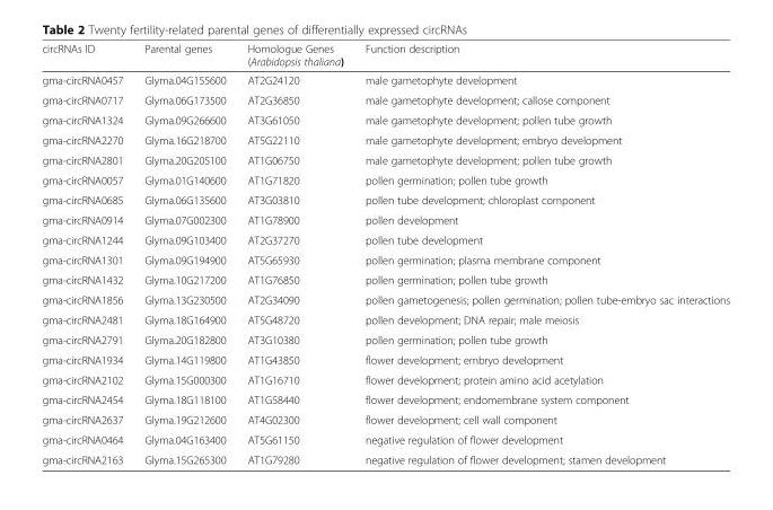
<table><thead><tr><td>circRNAs ID</td><td>Parental genes</td><td>Homologue Genes (Arabidopsis thaliana)</td><td>Function description</td></tr></thead><tbody><tr><td>gma-circRNA0457</td><td>Glyma.04G155600</td><td>AT2G24120</td><td>male gametophyte development</td></tr><tr><td>gma-circRNA0717</td><td>Glyma.06G173500</td><td>AT2G36850</td><td>male gametophyte development; callose component</td></tr><tr><td>gma-circRNA1324</td><td>Glyma.09G266600</td><td>AT3G61050</td><td>male gametophyte development; pollen tube growth</td></tr><tr><td>gma-circRNA2270</td><td>Glyma.16G218700</td><td>AT5G22110</td><td>male gametophyte development; embryo development</td></tr><tr><td>gma-circRNA2801</td><td>Glyma.20G205100</td><td>AT1G06750</td><td>male gametophyte development; pollen tube growth</td></tr><tr><td>gma-circRNA0057</td><td>Glyma.01G140600</td><td>AT1G71820</td><td>pollen germination; pollen tube growth</td></tr><tr><td>gma-circRNA0685</td><td>Glyma.06G135600</td><td>AT3G03810</td><td>pollen tube development; chloroplast component</td></tr><tr><td>gma-circRNA0914</td><td>Glyma.07G002300</td><td>AT1G78900</td><td>pollen development</td></tr><tr><td>gma-circRNA1244</td><td>Glyma.09G103400</td><td>AT2G37270</td><td>pollen tube development</td></tr><tr><td>gma-circRNA1301</td><td>Glyma.09G194900</td><td>AT5G65930</td><td>pollen germination; plasma membrane component</td></tr><tr><td>gma-circRNA1432</td><td>Glyma.10G217200</td><td>AT1G76850</td><td>pollen germination; pollen tube growth</td></tr><tr><td>gma-circRNA1856</td><td>Glyma.13G230500</td><td>AT2G34090</td><td>pollen gametogenesis; pollen germination; pollen tube-embryo sac interactions</td></tr><tr><td>gma-circRNA2481</td><td>Glyma.18G164900</td><td>AT5G48720</td><td>pollen development; DNA repair; male meiosis</td></tr><tr><td>gma-circRNA2791</td><td>Glyma.20G182800</td><td>AT3G10380</td><td>pollen germination; pollen tube growth</td></tr><tr><td>gma-circRNA1934</td><td>Glyma.14G119800</td><td>AT1G43850</td><td>flower development; embryo development</td></tr><tr><td>gma-circRNA2102</td><td>Glyma.15G000300</td><td>AT1G16710</td><td>flower development; protein amino acid acetylation</td></tr><tr><td>gma-circRNA2454</td><td>Glyma.18G118100</td><td>AT1G58440</td><td>flower development; endomembrane system component</td></tr><tr><td>gma-circRNA2637</td><td>Glyma.19G212600</td><td>AT4G02300</td><td>flower development; cell wall component</td></tr><tr><td>gma-circRNA0464</td><td>Glyma.04G163400</td><td>AT5G61150</td><td>negative regulation of flower development</td></tr><tr><td>gma-circRNA2163</td><td>Glyma.15G265300</td><td>AT1G79280</td><td>negative regulation of flower development; stamen development</td></tr></tbody></table>